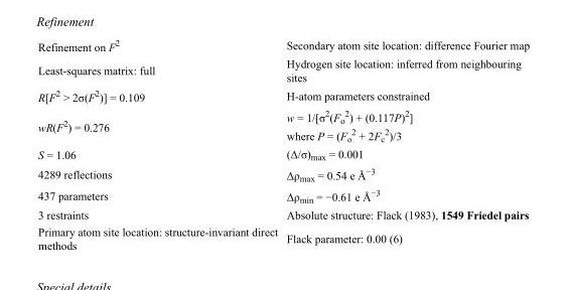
<table><tbody><tr><td>Refinement on F<sup>2</sup></td><td>Secondary atom site location: difference Fourier map</td></tr><tr><td>Least-squares matrix: full</td><td>Hydrogen site location: inferred from neighbouring sites</td></tr><tr><td>R[F<sup>2</sup> &gt; 2σ(F<sup>2</sup>)] = 0.109</td><td>H-atom parameters constrained</td></tr><tr><td>wR(F<sup>2</sup>) = 0.276</td><td>w = 1/[σ<sup>2</sup>(F<sub>o</sub> <sup>2</sup>) + (0.117P)<sup>2</sup>] where P = (F<sub>o</sub> <sup>2</sup> + 2F<sub>c</sub> <sup>2</sup>)/3</td></tr><tr><td>S = 1.06</td><td>(Δ/σ)<sub>max</sub> = 0.001</td></tr><tr><td>4289 reflections</td><td>Δρ<sub>max</sub> = 0.54 e Å<sup>−3</sup></td></tr><tr><td>437 parameters</td><td>Δρ<sub>min</sub> = −0.61 e Å<sup>−3</sup></td></tr><tr><td>3 restraints</td><td>Absolute structure: Flack (1983), 1549 Friedel pairs</td></tr><tr><td>Primary atom site location: structure-invariant direct methods</td><td>Flack parameter: 0.00 (6)</td></tr></tbody></table>